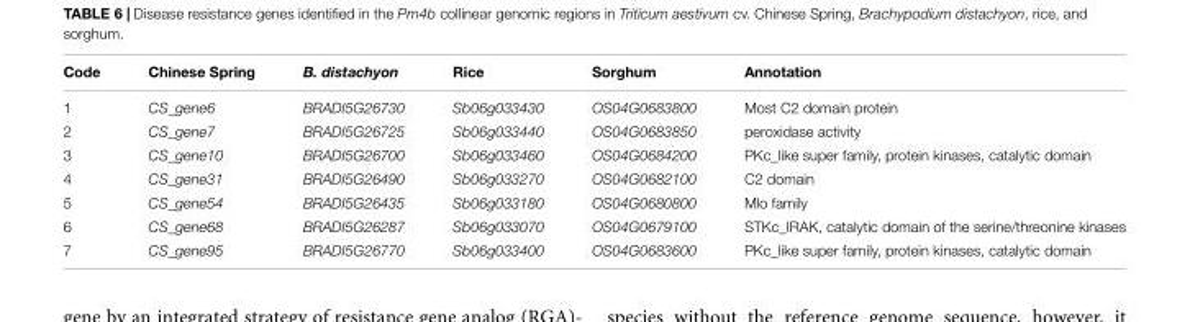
<table><thead><tr><td>Code</td><td>Chinese Spring</td><td>B. distachyon</td><td>Rice</td><td>Sorghum</td><td>Annotation</td></tr></thead><tbody><tr><td>1</td><td>CS_gene6</td><td>BRADI5G26730</td><td>Sb06g033430</td><td>OS04G0683800</td><td>Most C2 domain protein</td></tr><tr><td>2</td><td>CS_gene7</td><td>BRADI5G26725</td><td>Sb06g033440</td><td>OS04G0683850</td><td>peroxidase activity</td></tr><tr><td>3</td><td>CS_gene10</td><td>BRADI5G26700</td><td>Sb06g033460</td><td>OS04G0684200</td><td>PKc_like super family, protein kinases, catalytic domain</td></tr><tr><td>4</td><td>CS_gene31</td><td>BRADI5G26490</td><td>Sb06g033270</td><td>OS04G0682100</td><td>C2 domain</td></tr><tr><td>5</td><td>CS_gene54</td><td>BRADI5G26435</td><td>Sb06g033180</td><td>OS04G0680800</td><td>Mlo family</td></tr><tr><td>6</td><td>CS_gene68</td><td>BRADI5G26287</td><td>Sb06g033070</td><td>OS04G0679100</td><td>STKc_IRAK, catalytic domain of the serine/threonine kinases</td></tr><tr><td>7</td><td>CS_gene95</td><td>BRADI5G26770</td><td>Sb06g033400</td><td>OS04G0683600</td><td>PKc_like super family, protein kinases, catalytic domain</td></tr></tbody></table>